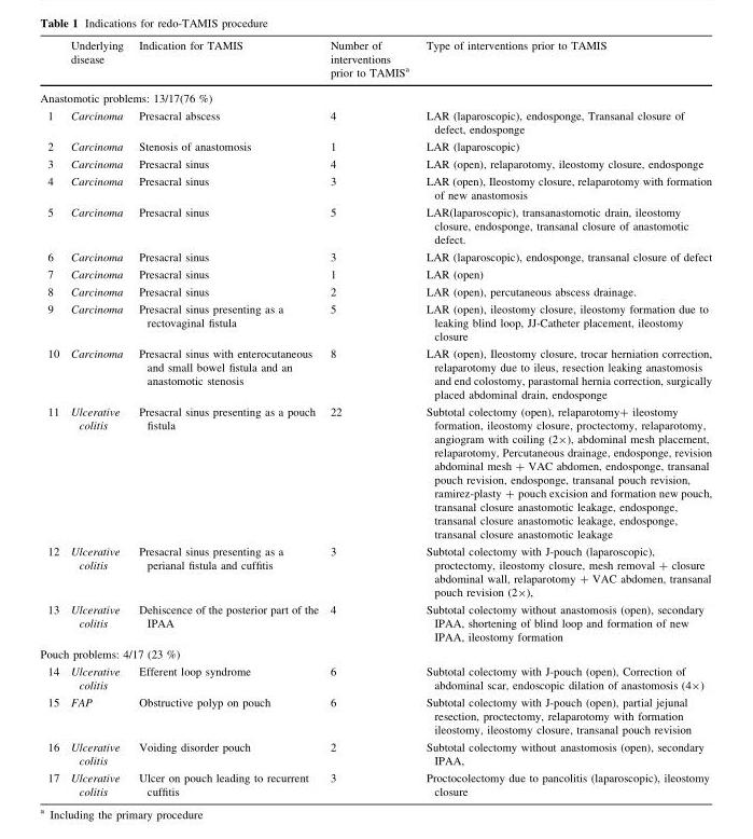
<table><thead><tr><td></td><td>Underlying disease</td><td>Indication for TAMIS</td><td>Number of interventions prior to TAMIS<sup>a</sup></td><td>Type of interventions prior to TAMIS</td></tr></thead><tbody><tr><td colspan="5">Anastomotic problems: 13/17(76 %)</td></tr><tr><td>1</td><td>Carcinoma</td><td>Presacral abscess</td><td>4</td><td>LAR (laparoscopic), endosponge, Transanal closure of defect, endosponge</td></tr><tr><td>2</td><td>Carcinoma</td><td>Stenosis of anastomosis</td><td>1</td><td>LAR (laparoscopic)</td></tr><tr><td>3</td><td>Carcinoma</td><td>Presacral sinus</td><td>4</td><td>LAR (open), relaparotomy, ileostomy closure, endosponge</td></tr><tr><td>4</td><td>Carcinoma</td><td>Presacral sinus</td><td>3</td><td>LAR (open), Ileostomy closure, relaparotomy with formation of new anastomosis</td></tr><tr><td>5</td><td>Carcinoma</td><td>Presacral sinus</td><td>5</td><td>LAR(laparoscopic), transanastomotic drain, ileostomy closure, endosponge, transanal closure of anastomotic defect.</td></tr><tr><td>6</td><td>Carcinoma</td><td>Presacral sinus</td><td>3</td><td>LAR (laparoscopic), endosponge, transanal closure of defect</td></tr><tr><td>7</td><td>Carcinoma</td><td>Presacral sinus</td><td>1</td><td>LAR (open)</td></tr><tr><td>8</td><td>Carcinoma</td><td>Presacral sinus</td><td>2</td><td>LAR (open), percutaneous abscess drainage.</td></tr><tr><td>9</td><td>Carcinoma</td><td>Presacral sinus presenting as a rectovaginal fistula</td><td>5</td><td>LAR (open), ileostomy closure, ileostomy formation due to leaking blind loop, JJ-Catheter placement, ileostomy closure</td></tr><tr><td>10</td><td>Carcinoma</td><td>Presacral sinus with enterocutaneous and small bowel fistula and an anastomotic stenosis</td><td>8</td><td>LAR (open), Ileostomy closure, trocar herniation correction, relaparotomy due to ileus, resection leaking anastomosis and end colostomy, parastomal hernia correction, surgically placed abdominal drain, endosponge</td></tr><tr><td>11</td><td>Ulcerative colitis</td><td>Presacral sinus presenting as a pouch fistula</td><td>22</td><td>Subtotal colectomy (open), relaparotomy+ ileostomy formation, ileostomy closure, proctectomy, relaparotomy, angiogram with coiling (2×), abdominal mesh placement, relaparotomy, Percutaneous drainage, endosponge, revision abdominal mesh + VAC abdomen, endosponge, transanal pouch revision, endosponge, transanal pouch revision, ramirez-plasty + pouch excision and formation new pouch, transanal closure anastomotic leakage, endosponge, transanal closure anastomotic leakage, endosponge, transanal closure anastomotic leakage</td></tr><tr><td>12</td><td>Ulcerative colitis</td><td>Presacral sinus presenting as a perianal fistula and cuffitis</td><td>3</td><td>Subtotal colectomy with J-pouch (laparoscopic), proctectomy, ileostomy closure, mesh removal + closure abdominal wall, relaparotomy + VAC abdomen, transanal pouch revision (2×),</td></tr><tr><td>13</td><td>Ulcerative colitis</td><td>Dehiscence of the posterior part of the IPAA</td><td>4</td><td>Subtotal colectomy without anastomosis (open), secondary IPAA, shortening of blind loop and formation of new IPAA, ileostomy formation</td></tr><tr><td colspan="5">Pouch problems: 4/17 (23 %)</td></tr><tr><td>14</td><td>Ulcerative colitis</td><td>Efferent loop syndrome</td><td>6</td><td>Subtotal colectomy with J-pouch (open), Correction of abdominal scar, endoscopic dilation of anastomosis (4×)</td></tr><tr><td>15</td><td>FAP</td><td>Obstructive polyp on pouch</td><td>6</td><td>Subtotal colectomy with J-pouch (open), partial jejunal resection, proctectomy, relaparotomy with formation ileostomy, ileostomy closure, transanal pouch revision</td></tr><tr><td>16</td><td>Ulcerative colitis</td><td>Voiding disorder pouch</td><td>2</td><td>Subtotal colectomy without anastomosis (open), secondary IPAA,</td></tr><tr><td>17</td><td>Ulcerative colitis</td><td>Ulcer on pouch leading to recurrent cuffitis</td><td>3</td><td>Proctocolectomy due to pancolitis (laparoscopic), ileostomy closure</td></tr></tbody></table>